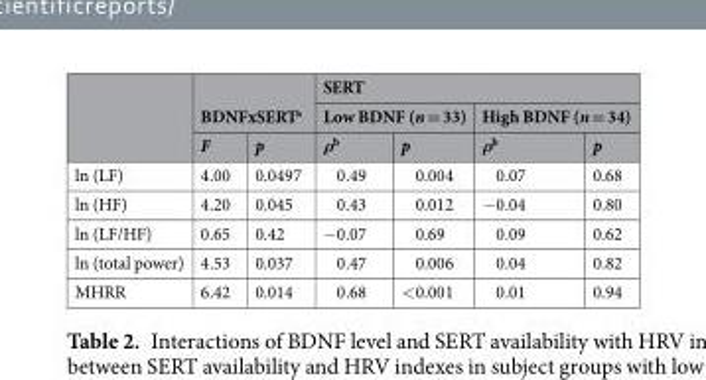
<table><thead><tr><td rowspan="3"></td><td rowspan="2" colspan="2">BDNFхSERT<sup>a</sup></td><td colspan="4">SERT</td></tr><tr><td colspan="2">Low BDNF (n = 33)</td><td colspan="2">High BDNF (n = 34)</td></tr><tr><td>F</td><td>p</td><td>ρ<sup>b</sup></td><td>p</td><td>ρ<sup>b</sup></td><td>p</td></tr></thead><tbody><tr><td>ln (LF)</td><td>4.00</td><td>0.0497</td><td>0.49</td><td>0.004</td><td>0.07</td><td>0.68</td></tr><tr><td>ln (HF)</td><td>4.20</td><td>0.045</td><td>0.43</td><td>0.012</td><td>−0.04</td><td>0.80</td></tr><tr><td>ln (LF/HF)</td><td>0.65</td><td>0.42</td><td>−0.07</td><td>0.69</td><td>0.09</td><td>0.62</td></tr><tr><td>ln (total power)</td><td>4.53</td><td>0.037</td><td>0.47</td><td>0.006</td><td>0.04</td><td>0.82</td></tr><tr><td>MHRR</td><td>6.42</td><td>0.014</td><td>0.68</td><td>&lt;0.001</td><td>0.01</td><td>0.94</td></tr></tbody></table>